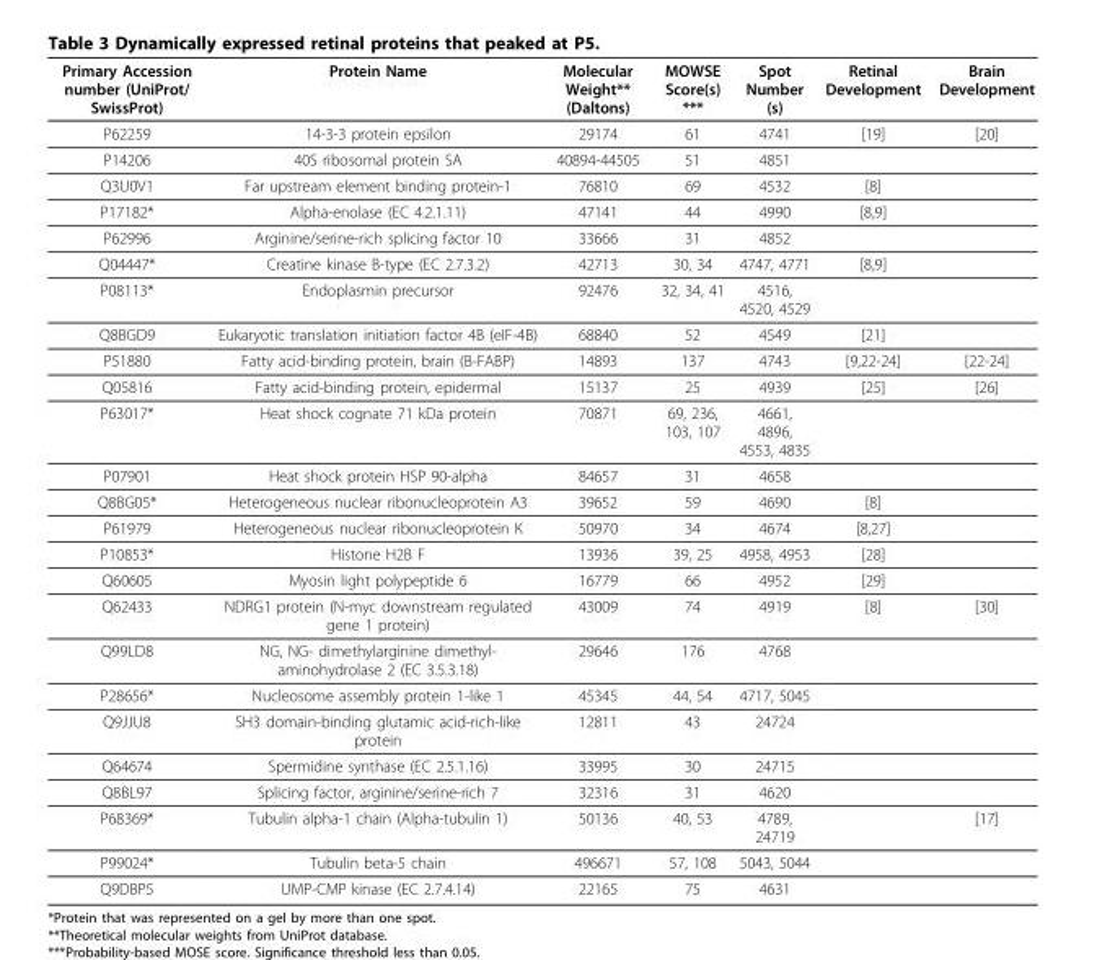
<table><thead><tr><td>Primary Accession number (UniProt/ SwissProt)</td><td>Protein Name</td><td>Molecular Weight** (Daltons)</td><td>MOWSE Score(s) ***</td><td>Spot Number (s)</td><td>Retinal Development</td><td>Brain Development</td></tr></thead><tbody><tr><td>P62259</td><td>14-3-3 protein epsilon</td><td>29174</td><td>61</td><td>4741</td><td>[19]</td><td>[20]</td></tr><tr><td>P14206</td><td>40S ribosomal protein SA</td><td>40894-44505</td><td>51</td><td>4851</td><td></td><td></td></tr><tr><td>Q3U0V1</td><td>Far upstream element binding protein-1</td><td>76810</td><td>69</td><td>4532</td><td>[8]</td><td></td></tr><tr><td>P17182*</td><td>Alpha-enolase (EC 4.2.1.11)</td><td>47141</td><td>44</td><td>4990</td><td>[8,9]</td><td></td></tr><tr><td>P62996</td><td>Arginine/serine-rich splicing factor 10</td><td>33666</td><td>31</td><td>4852</td><td></td><td></td></tr><tr><td>Q04447*</td><td>Creatine kinase B-type (EC 2.7.3.2)</td><td>42713</td><td>30, 34</td><td>4747, 4771</td><td>[8,9]</td><td></td></tr><tr><td>P08113*</td><td>Endoplasmin precursor</td><td>92476</td><td>32, 34, 41</td><td>4516, 4520, 4529</td><td></td><td></td></tr><tr><td>Q8BGD9</td><td>Eukaryotic translation initiation factor 4B (eIF-4B)</td><td>68840</td><td>52</td><td>4549</td><td>[21]</td><td></td></tr><tr><td>P51880</td><td>Fatty acid-binding protein, brain (B-FABP)</td><td>14893</td><td>137</td><td>4743</td><td>[9,22-24]</td><td>[22-24]</td></tr><tr><td>Q05816</td><td>Fatty acid-binding protein, epidermal</td><td>15137</td><td>25</td><td>4939</td><td>[25]</td><td>[26]</td></tr><tr><td>P63017*</td><td>Heat shock cognate 71 kDa protein</td><td>70871</td><td>69, 236, 103, 107</td><td>4661, 4896, 4553, 4835</td><td></td><td></td></tr><tr><td>P07901</td><td>Heat shock protein HSP 90-alpha</td><td>84657</td><td>31</td><td>4658</td><td></td><td></td></tr><tr><td>Q8BG05*</td><td>Heterogeneous nuclear ribonucleoprotein A3</td><td>39652</td><td>59</td><td>4690</td><td>[8]</td><td></td></tr><tr><td>P61979</td><td>Heterogeneous nuclear ribonucleoprotein K</td><td>50970</td><td>34</td><td>4674</td><td>[8,27]</td><td></td></tr><tr><td>P10853*</td><td>Histone H2B F</td><td>13936</td><td>39, 25</td><td>4958, 4953</td><td>[28]</td><td></td></tr><tr><td>Q60605</td><td>Myosin light polypeptide 6</td><td>16779</td><td>66</td><td>4952</td><td>[29]</td><td></td></tr><tr><td>Q62433</td><td>NDRG1 protein (N-myc downstream regulated gene 1 protein)</td><td>43009</td><td>74</td><td>4919</td><td>[8]</td><td>[30]</td></tr><tr><td>Q99LD8</td><td>NG, NG- dimethylarginine dimethyl- aminohydrolase 2 (EC 3.5.3.18)</td><td>29646</td><td>176</td><td>4768</td><td></td><td></td></tr><tr><td>P28656*</td><td>Nucleosome assembly protein 1-like 1</td><td>45345</td><td>44, 54</td><td>4717, 5045</td><td></td><td></td></tr><tr><td>Q9JJU8</td><td>SH3 domain-binding glutamic acid-rich-like protein</td><td>12811</td><td>43</td><td>24724</td><td></td><td></td></tr><tr><td>Q64674</td><td>Spermidine synthase (EC 2.5.1.16)</td><td>33995</td><td>30</td><td>24715</td><td></td><td></td></tr><tr><td>Q8BL97</td><td>Splicing factor, arginine/serine-rich 7</td><td>32316</td><td>31</td><td>4620</td><td></td><td></td></tr><tr><td>P68369*</td><td>Tubulin alpha-1 chain (Alpha-tubulin 1)</td><td>50136</td><td>40, 53</td><td>4789, 24719</td><td></td><td>[17]</td></tr><tr><td>P99024*</td><td>Tubulin beta-5 chain</td><td>496671</td><td>57, 108</td><td>5043, 5044</td><td></td><td></td></tr><tr><td>Q9DBP5</td><td>UMP-CMP kinase (EC 2.7.4.14)</td><td>22165</td><td>75</td><td>4631</td><td></td><td></td></tr></tbody></table>